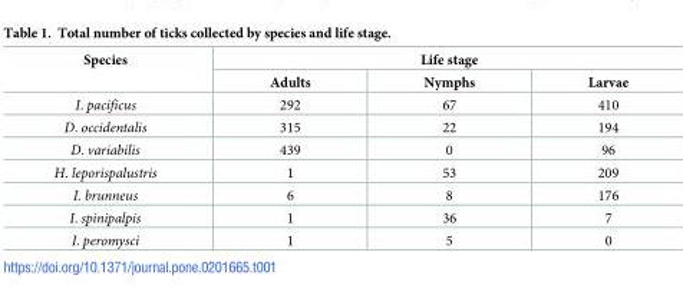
<table><thead><tr><td rowspan="2">Species</td><td colspan="3">Life stage</td></tr><tr><td>Adults</td><td>Nymphs</td><td>Larvae</td></tr></thead><tbody><tr><td>I. pacificus</td><td>292</td><td>67</td><td>410</td></tr><tr><td>D. occidentalis</td><td>315</td><td>22</td><td>194</td></tr><tr><td>D. variabilis</td><td>439</td><td>0</td><td>96</td></tr><tr><td>H. leporispalustris</td><td>1</td><td>53</td><td>209</td></tr><tr><td>I. brunneus</td><td>6</td><td>8</td><td>176</td></tr><tr><td>I. spinipalpis</td><td>1</td><td>36</td><td>7</td></tr><tr><td>I. peromysci</td><td>1</td><td>5</td><td>0</td></tr></tbody></table>